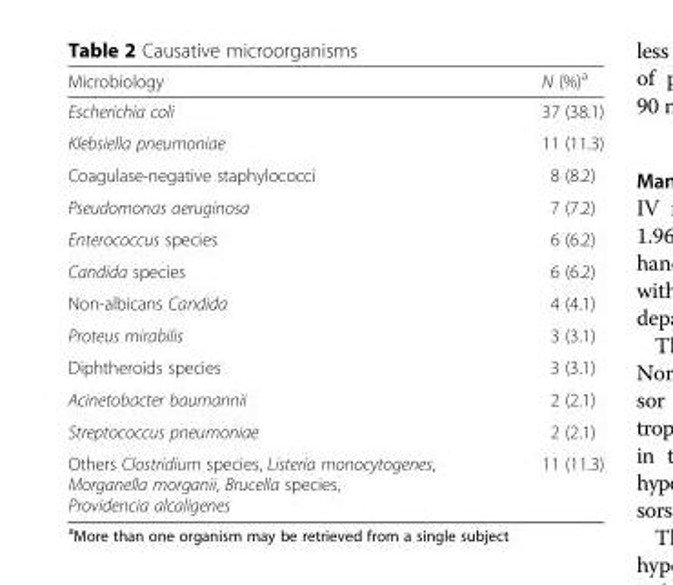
<table><thead><tr><td>Microbiology</td><td>N (%)<sup>a</sup></td></tr></thead><tbody><tr><td>Escherichia coli</td><td>37 (38.1)</td></tr><tr><td>Klebsiella pneumoniae</td><td>11 (11.3)</td></tr><tr><td>Coagulase-negative staphylococci</td><td>8 (8.2)</td></tr><tr><td>Pseudomonas aeruginosa</td><td>7 (7.2)</td></tr><tr><td>Enterococcus species</td><td>6 (6.2)</td></tr><tr><td>Candida species</td><td>6 (6.2)</td></tr><tr><td>Non-albicans Candida</td><td>4 (4.1)</td></tr><tr><td>Proteus mirabilis</td><td>3 (3.1)</td></tr><tr><td>Diphtheroids species</td><td>3 (3.1)</td></tr><tr><td>Acinetobacter baumannii</td><td>2 (2.1)</td></tr><tr><td>Streptococcus pneumoniae</td><td>2 (2.1)</td></tr><tr><td>Others Clostridium species, Listeria monocytogenes, Morganella morganii, Brucella species, Providencia alcaligenes</td><td>11 (11.3)</td></tr></tbody></table>